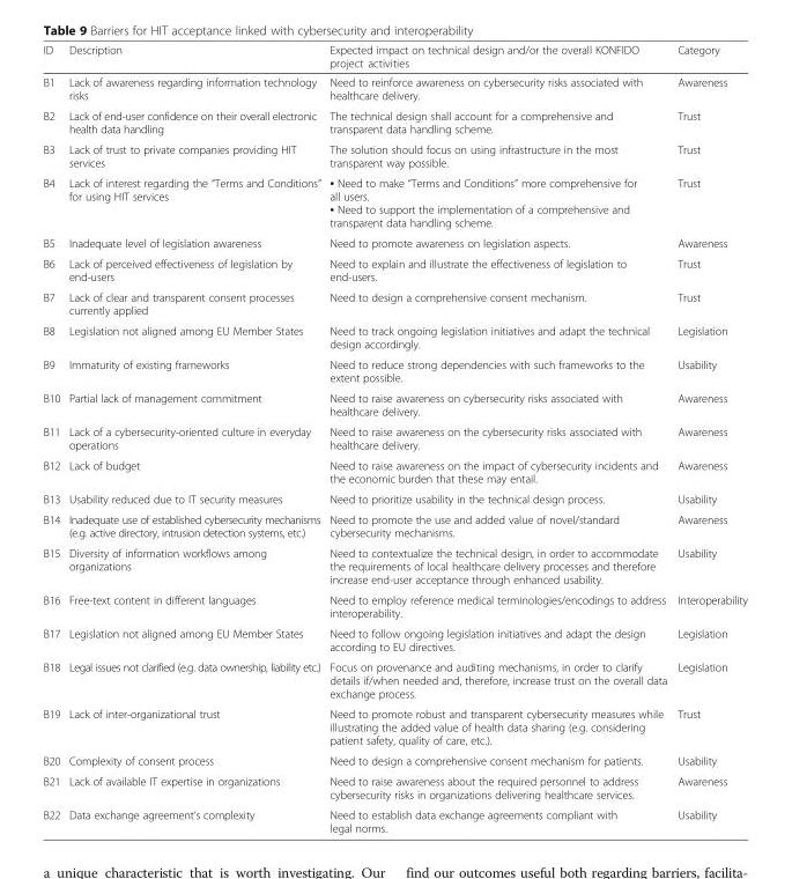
<table><thead><tr><td>ID</td><td>Description</td><td>Expected impact on technical design and/or the overall KONFIDO project activities</td><td>Category</td></tr></thead><tbody><tr><td>B1</td><td>Lack of awareness regarding information technology risks</td><td>Need to reinforce awareness on cybersecurity risks associated with healthcare delivery.</td><td>Awareness</td></tr><tr><td>B2</td><td>Lack of end-user confidence on their overall electronic health data handling</td><td>The technical design shall account for a comprehensive and transparent data handling scheme.</td><td>Trust</td></tr><tr><td>B3</td><td>Lack of trust to private companies providing HIT services</td><td>The solution should focus on using infrastructure in the most transparent way possible.</td><td>Trust</td></tr><tr><td>B4</td><td>Lack of interest regarding the “Terms and Conditions” for using HIT services</td><td>▪ Need to make “Terms and Conditions” more comprehensive for all users. ▪ Need to support the implementation of a comprehensive and transparent data handling scheme.</td><td>Trust</td></tr><tr><td>B5</td><td>Inadequate level of legislation awareness</td><td>Need to promote awareness on legislation aspects.</td><td>Awareness</td></tr><tr><td>B6</td><td>Lack of perceived effectiveness of legislation by end-users</td><td>Need to explain and illustrate the effectiveness of legislation to end-users.</td><td>Trust</td></tr><tr><td>B7</td><td>Lack of clear and transparent consent processes currently applied</td><td>Need to design a comprehensive consent mechanism.</td><td>Trust</td></tr><tr><td>B8</td><td>Legislation not aligned among EU Member States</td><td>Need to track ongoing legislation initiatives and adapt the technical design accordingly.</td><td>Legislation</td></tr><tr><td>B9</td><td>Immaturity of existing frameworks</td><td>Need to reduce strong dependencies with such frameworks to the extent possible.</td><td>Usability</td></tr><tr><td>B10</td><td>Partial lack of management commitment</td><td>Need to raise awareness on cybersecurity risks associated with healthcare delivery.</td><td>Awareness</td></tr><tr><td>B11</td><td>Lack of a cybersecurity-oriented culture in everyday operations</td><td>Need to raise awareness on the cybersecurity risks associated with healthcare delivery.</td><td>Awareness</td></tr><tr><td>B12</td><td>Lack of budget</td><td>Need to raise awareness on the impact of cybersecurity incidents and the economic burden that these may entail.</td><td>Awareness</td></tr><tr><td>B13</td><td>Usability reduced due to IT security measures</td><td>Need to prioritize usability in the technical design process.</td><td>Usability</td></tr><tr><td>B14</td><td>Inadequate use of established cybersecurity mechanisms (e.g. active directory, intrusion detection systems, etc.)</td><td>Need to promote the use and added value of novel/standard cybersecurity mechanisms.</td><td>Awareness</td></tr><tr><td>B15</td><td>Diversity of information workflows among organizations</td><td>Need to contextualize the technical design, in order to accommodate the requirements of local healthcare delivery processes and therefore increase end-user acceptance through enhanced usability.</td><td>Usability</td></tr><tr><td>B16</td><td>Free-text content in different languages</td><td>Need to employ reference medical terminologies/encodings to address interoperability.</td><td>Interoperability</td></tr><tr><td>B17</td><td>Legislation not aligned among EU Member States</td><td>Need to follow ongoing legislation initiatives and adapt the design according to EU directives.</td><td>Legislation</td></tr><tr><td>B18</td><td>Legal issues not clarified (e.g. data ownership, liability etc.)</td><td>Focus on provenance and auditing mechanisms, in order to clarify details if/when needed and, therefore, increase trust on the overall data exchange process.</td><td>Legislation</td></tr><tr><td>B19</td><td>Lack of inter-organizational trust</td><td>Need to promote robust and transparent cybersecurity measures while illustrating the added value of health data sharing (e.g. considering patient safety, quality of care, etc.).</td><td>Trust</td></tr><tr><td>B20</td><td>Complexity of consent process</td><td>Need to design a comprehensive consent mechanism for patients.</td><td>Usability</td></tr><tr><td>B21</td><td>Lack of available IT expertise in organizations</td><td>Need to raise awareness about the required personnel to address cybersecurity risks in organizations delivering healthcare services.</td><td>Awareness</td></tr><tr><td>B22</td><td>Data exchange agreement’s complexity</td><td>Need to establish data exchange agreements compliant with legal norms.</td><td>Usability</td></tr></tbody></table>